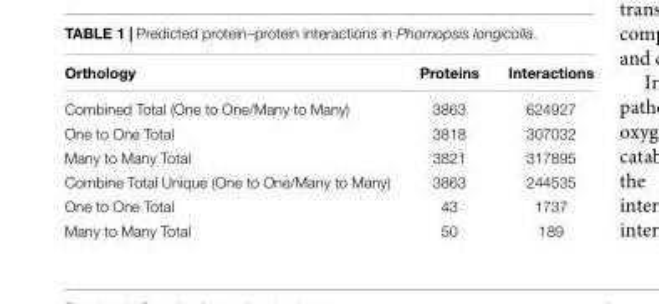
<table><thead><tr><td>Orthology</td><td>Proteins</td><td>Interactions</td></tr></thead><tbody><tr><td>Combined Total (One to One/Many to Many)</td><td>3863</td><td>624927</td></tr><tr><td>One to One Total</td><td>3818</td><td>307032</td></tr><tr><td>Many to Many Total</td><td>3821</td><td>317895</td></tr><tr><td>Combine Total Unique (One to One/Many to Many)</td><td>3863</td><td>244535</td></tr><tr><td>One to One Total</td><td>43</td><td>1737</td></tr><tr><td>Many to Many Total</td><td>50</td><td>189</td></tr></tbody></table>